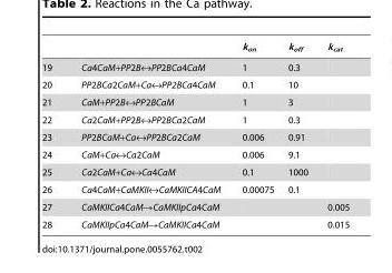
<table><thead><tr><td></td><td></td><td>k<sub>on</sub></td><td>k<sub>off</sub></td><td>k<sub>cat</sub></td></tr></thead><tbody><tr><td>19</td><td>Ca4CaM+PP2B↔PP2BCa4CaM</td><td>1</td><td>0.3</td><td></td></tr><tr><td>20</td><td>PP2BCa2CaM+Ca↔PP2BCa4CaM</td><td>0.1</td><td>10</td><td></td></tr><tr><td>21</td><td>CaM+PP2B↔PP2BCaM</td><td>1</td><td>3</td><td></td></tr><tr><td>22</td><td>Ca2CaM+PP2B↔PP2BCa2CaM</td><td>1</td><td>0.3</td><td></td></tr><tr><td>23</td><td>PP2BCaM+Ca↔PP2BCa2CaM</td><td>0.006</td><td>0.91</td><td></td></tr><tr><td>24</td><td>CaM+Ca↔Ca2CaM</td><td>0.006</td><td>9.1</td><td></td></tr><tr><td>25</td><td>Ca2CaM+Ca↔Ca4CaM</td><td>0.1</td><td>1000</td><td></td></tr><tr><td>26</td><td>Ca4CaM+CaMKII↔CaMKIICA4CaM</td><td>0.00075</td><td>0.1</td><td></td></tr><tr><td>27</td><td>CaMKIICa4CaM→CaMKIIpCa4CaM</td><td></td><td></td><td>0.005</td></tr><tr><td>28</td><td>CaMKIIpCa4CaM→CaMKIICa4CaM</td><td></td><td></td><td>0.015</td></tr></tbody></table>